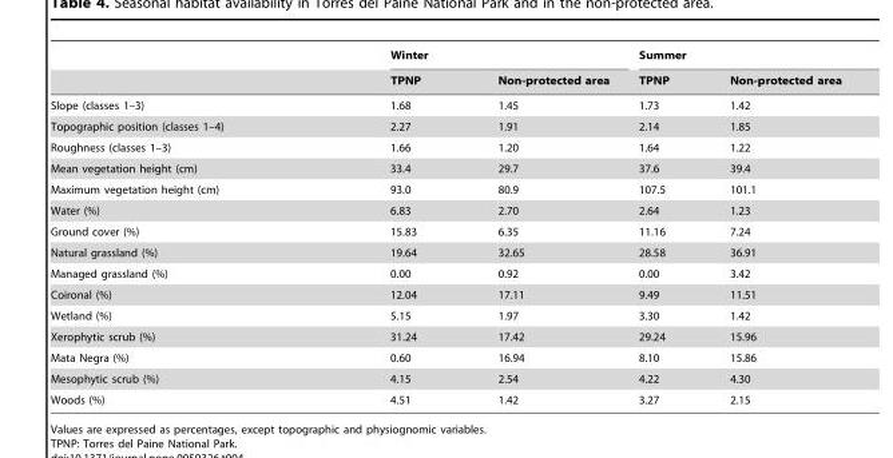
<table><thead><tr><td rowspan="2"></td><td colspan="2">Winter</td><td colspan="2">Summer</td></tr><tr><td>TPNP</td><td>Non-protected area</td><td>TPNP</td><td>Non-protected area</td></tr></thead><tbody><tr><td>Slope (classes 1–3)</td><td>1.68</td><td>1.45</td><td>1.73</td><td>1.42</td></tr><tr><td>Topographic position (classes 1–4)</td><td>2.27</td><td>1.91</td><td>2.14</td><td>1.85</td></tr><tr><td>Roughness (classes 1–3)</td><td>1.66</td><td>1.20</td><td>1.64</td><td>1.22</td></tr><tr><td>Mean vegetation height (cm)</td><td>33.4</td><td>29.7</td><td>37.6</td><td>39.4</td></tr><tr><td>Maximum vegetation height (cm)</td><td>93.0</td><td>80.9</td><td>107.5</td><td>101.1</td></tr><tr><td>Water (%)</td><td>6.83</td><td>2.70</td><td>2.64</td><td>1.23</td></tr><tr><td>Ground cover (%)</td><td>15.83</td><td>6.35</td><td>11.16</td><td>7.24</td></tr><tr><td>Natural grassland (%)</td><td>19.64</td><td>32.65</td><td>28.58</td><td>36.91</td></tr><tr><td>Managed grassland (%)</td><td>0.00</td><td>0.92</td><td>0.00</td><td>3.42</td></tr><tr><td>Coironal (%)</td><td>12.04</td><td>17.11</td><td>9.49</td><td>11.51</td></tr><tr><td>Wetland (%)</td><td>5.15</td><td>1.97</td><td>3.30</td><td>1.42</td></tr><tr><td>Xerophytic scrub (%)</td><td>31.24</td><td>17.42</td><td>29.24</td><td>15.96</td></tr><tr><td>Mata Negra (%)</td><td>0.60</td><td>16.94</td><td>8.10</td><td>15.86</td></tr><tr><td>Mesophytic scrub (%)</td><td>4.15</td><td>2.54</td><td>4.22</td><td>4.30</td></tr><tr><td>Woods (%)</td><td>4.51</td><td>1.42</td><td>3.27</td><td>2.15</td></tr></tbody></table>